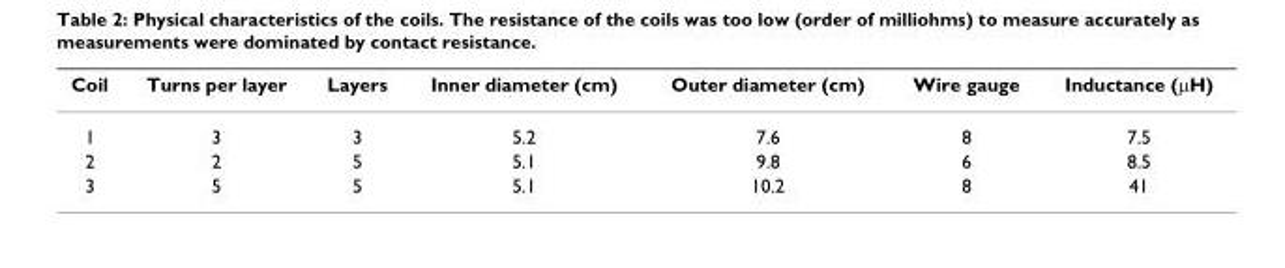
<table><thead><tr><td>Coil</td><td>Turns per layer</td><td>Layers</td><td>Inner diameter (cm)</td><td>Outer diameter (cm)</td><td>Wire gauge</td><td>Inductance (µH)</td></tr></thead><tbody><tr><td>1</td><td>3</td><td>3</td><td>5.2</td><td>7.6</td><td>8</td><td>7.5</td></tr><tr><td>2</td><td>2</td><td>5</td><td>5.1</td><td>9.8</td><td>6</td><td>8.5</td></tr><tr><td>3</td><td>5</td><td>5</td><td>5.1</td><td>10.2</td><td>8</td><td>41</td></tr></tbody></table>